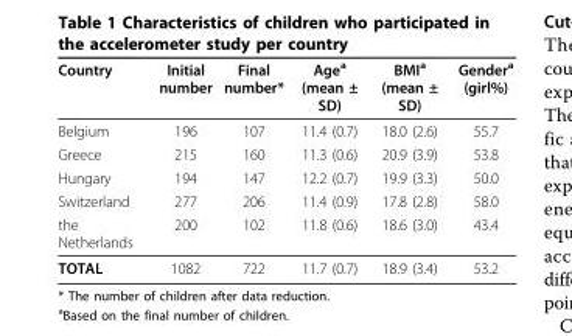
<table><thead><tr><td>Country</td><td>Initial number</td><td>Final number*</td><td>Age<sup>a</sup> (mean ± SD)</td><td>BMI<sup>a</sup> (mean ± SD)</td><td>Gender<sup>a</sup> (girl%)</td></tr></thead><tbody><tr><td>Belgium</td><td>196</td><td>107</td><td>11.4 (0.7)</td><td>18.0 (2.6)</td><td>55.7</td></tr><tr><td>Greece</td><td>215</td><td>160</td><td>11.3 (0.6)</td><td>20.9 (3.9)</td><td>53.8</td></tr><tr><td>Hungary</td><td>194</td><td>147</td><td>12.2 (0.7)</td><td>19.9 (3.3)</td><td>50.0</td></tr><tr><td>Switzerland</td><td>277</td><td>206</td><td>11.4 (0.9)</td><td>17.8 (2.8)</td><td>58.0</td></tr><tr><td>the Netherlands</td><td>200</td><td>102</td><td>11.8 (0.6)</td><td>18.6 (3.0)</td><td>43.4</td></tr><tr><td>TOTAL</td><td>1082</td><td>722</td><td>11.7 (0.7)</td><td>18.9 (3.4)</td><td>53.2</td></tr></tbody></table>